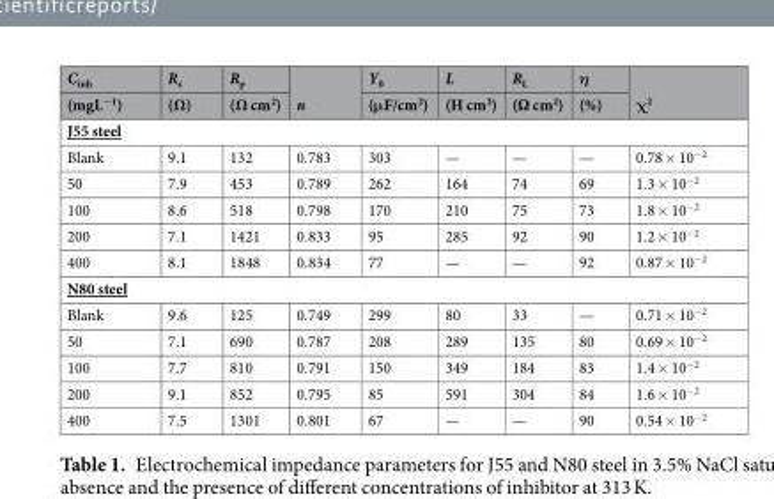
<table><thead><tr><td rowspan="2">C<sub>inh</sub> (mgL<sup>−1</sup>)</td><td rowspan="2">R<sub>s</sub> (Ω)</td><td rowspan="2">Rp (Ω cm2)</td><td rowspan="2">n</td><td rowspan="2">Y<sub>0</sub> (μF/cm<sup>2</sup>)</td><td rowspan="2">L (H cm<sup>2</sup>)</td><td rowspan="2">RL (Ω cm2)</td><td rowspan="2">η (%)</td><td rowspan="2">χ<sup>2</sup></td></tr><tr></tr></thead><tbody><tr><td colspan="9">J55 steel</td></tr><tr><td>Blank</td><td>9.1</td><td>132</td><td>0.783</td><td>303</td><td>—</td><td>—</td><td>—</td><td>0.78 × 10<sup>−2</sup></td></tr><tr><td>50</td><td>7.9</td><td>453</td><td>0.789</td><td>262</td><td>164</td><td>74</td><td>69</td><td>1.3 × 10<sup>−2</sup></td></tr><tr><td>100</td><td>8.6</td><td>518</td><td>0.798</td><td>170</td><td>210</td><td>75</td><td>73</td><td>1.8 × 10<sup>−2</sup></td></tr><tr><td>200</td><td>7.1</td><td>1421</td><td>0.833</td><td>95</td><td>285</td><td>92</td><td>90</td><td>1.2 × 10<sup>−2</sup></td></tr><tr><td>400</td><td>8.1</td><td>1848</td><td>0.834</td><td>77</td><td>—</td><td>—</td><td>92</td><td>0.87 × 10<sup>−2</sup></td></tr><tr><td colspan="9">N80 steel</td></tr><tr><td>Blank</td><td>9.6</td><td>125</td><td>0.749</td><td>299</td><td>80</td><td>33</td><td>—</td><td>0.71 × 10<sup>−2</sup></td></tr><tr><td>50</td><td>7.1</td><td>690</td><td>0.787</td><td>208</td><td>289</td><td>135</td><td>80</td><td>0.69 × 10<sup>−2</sup></td></tr><tr><td>100</td><td>7.7</td><td>810</td><td>0.791</td><td>150</td><td>349</td><td>184</td><td>83</td><td>1.4 × 10<sup>−2</sup></td></tr><tr><td>200</td><td>9.1</td><td>852</td><td>0.795</td><td>85</td><td>591</td><td>304</td><td>84</td><td>1.6 × 10<sup>−2</sup></td></tr><tr><td>400</td><td>7.5</td><td>1301</td><td>0.801</td><td>67</td><td>—</td><td>—</td><td>90</td><td>0.54 × 10<sup>−2</sup></td></tr></tbody></table>